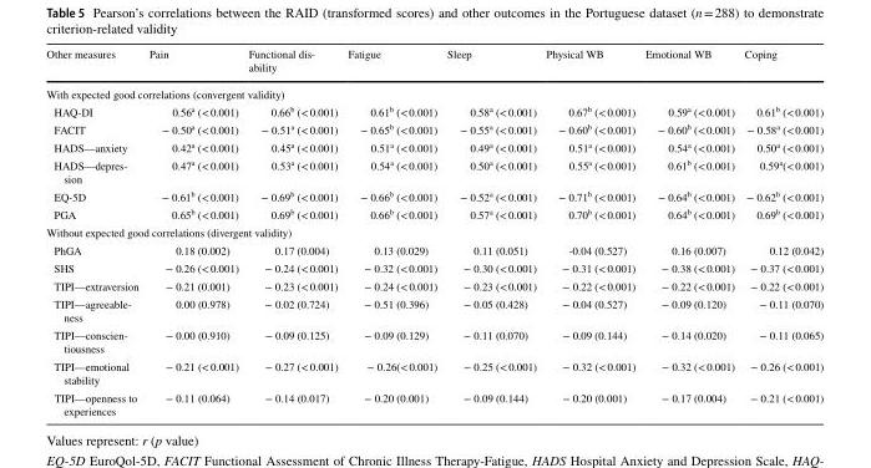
<table><thead><tr><td>Other measures</td><td>Pain</td><td>Functional dis- ability</td><td>Fatigue</td><td>Sleep</td><td>Physical WB</td><td>Emotional WB</td><td>Coping</td></tr></thead><tbody><tr><td colspan="8">With expected good correlations (convergent validity)</td></tr><tr><td>HAQ-DI</td><td>0.56<sup>a</sup> (&lt; 0.001)</td><td>0.66<sup>b</sup> (&lt; 0.001)</td><td>0.61<sup>b</sup> (&lt; 0.001)</td><td>0.58<sup>a</sup> (&lt; 0.001)</td><td>0.67<sup>b</sup> (&lt; 0.001)</td><td>0.59<sup>a</sup> (&lt; 0.001)</td><td>0.61<sup>b</sup> (&lt; 0.001)</td></tr><tr><td>FACIT</td><td>− 0.50<sup>a</sup> (&lt; 0.001)</td><td>− 0.51<sup>a</sup> (&lt; 0.001)</td><td>− 0.65<sup>b</sup> (&lt; 0.001)</td><td>− 0.55<sup>a</sup> (&lt; 0.001)</td><td>− 0.60<sup>b</sup> (&lt; 0.001)</td><td>− 0.60<sup>b</sup> (&lt; 0.001)</td><td>− 0.58<sup>a</sup> (&lt; 0.001)</td></tr><tr><td>HADS—anxiety</td><td>0.42<sup>a</sup> (&lt; 0.001)</td><td>0.45<sup>a</sup> (&lt; 0.001)</td><td>0.51<sup>a</sup> (&lt; 0.001)</td><td>0.49<sup>a</sup> (&lt; 0.001)</td><td>0.51<sup>a</sup> (&lt; 0.001)</td><td>0.54<sup>a</sup> (&lt; 0.001)</td><td>0.50<sup>a</sup> (&lt; 0.001)</td></tr><tr><td>HADS—depres- sion</td><td>0.47<sup>a</sup> (&lt; 0.001)</td><td>0.53<sup>a</sup> (&lt; 0.001)</td><td>0.54<sup>a</sup> (&lt; 0.001)</td><td>0.50<sup>a</sup> (&lt; 0.001)</td><td>0.55<sup>a</sup> (&lt; 0.001)</td><td>0.61<sup>b</sup> (&lt; 0.001)</td><td>0.59<sup>a</sup>(&lt; 0.001)</td></tr><tr><td>EQ-5D</td><td>− 0.61<sup>b</sup> (&lt; 0.001)</td><td>− 0.69<sup>b</sup> (&lt; 0.001)</td><td>− 0.66<sup>b</sup> (&lt; 0.001)</td><td>− 0.52<sup>a</sup> (&lt; 0.001)</td><td>− 0.71<sup>b</sup> (&lt; 0.001)</td><td>− 0.64<sup>b</sup> (&lt; 0.001)</td><td>− 0.62<sup>b</sup> (&lt; 0.001)</td></tr><tr><td>PGA</td><td>0.65<sup>b</sup> (&lt; 0.001)</td><td>0.69<sup>b</sup> (&lt; 0.001)</td><td>0.66<sup>b</sup> (&lt; 0.001)</td><td>0.57<sup>a</sup> (&lt; 0.001)</td><td>0.70<sup>b</sup> (&lt; 0.001)</td><td>0.64<sup>b</sup> (&lt; 0.001)</td><td>0.69<sup>b</sup> (&lt; 0.001)</td></tr><tr><td colspan="8">Without expected good correlations (divergent validity)</td></tr><tr><td>PhGA</td><td>0.18 (0.002)</td><td>0.17 (0.004)</td><td>0.13 (0.029)</td><td>0.11 (0.051)</td><td>-0.04 (0.527)</td><td>0.16 (0.007)</td><td>0.12 (0.042)</td></tr><tr><td>SHS</td><td>− 0.26 (&lt; 0.001)</td><td>− 0.24 (&lt; 0.001)</td><td>− 0.32 (&lt; 0.001)</td><td>− 0.30 (&lt; 0.001)</td><td>− 0.31 (&lt; 0.001)</td><td>− 0.38 (&lt; 0.001)</td><td>− 0.37 (&lt; 0.001)</td></tr><tr><td>TIPI—extraversion</td><td>− 0.21 (0.001)</td><td>− 0.23 (&lt; 0.001)</td><td>− 0.24 (&lt; 0.001)</td><td>− 0.23 (&lt; 0.001)</td><td>− 0.22 (&lt; 0.001)</td><td>− 0.22 (&lt; 0.001)</td><td>− 0.22 (&lt; 0.001)</td></tr><tr><td>TIPI—agreeable- ness</td><td>0.00 (0.978)</td><td>− 0.02 (0.724)</td><td>− 0.51 (0.396)</td><td>− 0.05 (0.428)</td><td>− 0.04 (0.527)</td><td>− 0.09 (0.120)</td><td>− 0.11 (0.070)</td></tr><tr><td>TIPI—conscien- tiousness</td><td>− 0.00 (0.910)</td><td>− 0.09 (0.125)</td><td>− 0.09 (0.129)</td><td>− 0.11 (0.070)</td><td>− 0.09 (0.144)</td><td>− 0.14 (0.020)</td><td>− 0.11 (0.065)</td></tr><tr><td>TIPI—emotional stability</td><td>− 0.21 (&lt; 0.001)</td><td>− 0.27 (&lt; 0.001)</td><td>− 0.26(&lt; 0.001)</td><td>− 0.25 (&lt; 0.001)</td><td>− 0.32 (&lt; 0.001)</td><td>− 0.32 (&lt; 0.001)</td><td>− 0.26 (&lt; 0.001)</td></tr><tr><td>TIPI—openness to experiences</td><td>− 0.11 (0.064)</td><td>− 0.14 (0.017)</td><td>− 0.20 (0.001)</td><td>− 0.09 (0.144)</td><td>− 0.20 (0.001)</td><td>− 0.17 (0.004)</td><td>− 0.21 (&lt; 0.001)</td></tr></tbody></table>